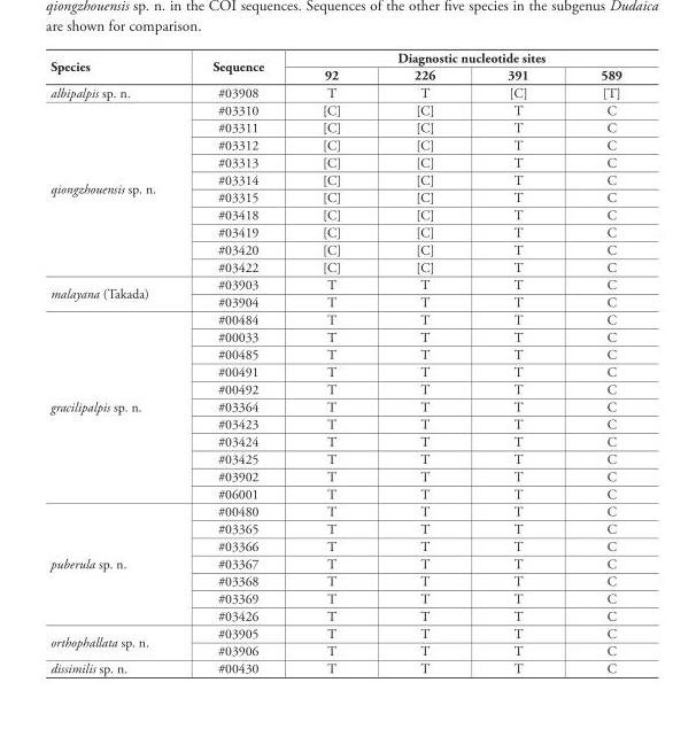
<table><thead><tr><td rowspan="2">Species</td><td rowspan="2">Sequence</td><td colspan="4">Diagnostic nucleotide sites</td></tr><tr><td>92</td><td>226</td><td>391</td><td>589</td></tr></thead><tbody><tr><td>albipalpis sp. n.</td><td>#03908</td><td>T</td><td>T</td><td>[C]</td><td>[T]</td></tr><tr><td rowspan="10">qiongzhouensis sp. n.</td><td>#03310</td><td>[C]</td><td>[C]</td><td>T</td><td>C</td></tr><tr><td>#03311</td><td>[C]</td><td>[C]</td><td>T</td><td>C</td></tr><tr><td>#03312</td><td>[C]</td><td>[C]</td><td>T</td><td>C</td></tr><tr><td>#03313</td><td>[C]</td><td>[C]</td><td>T</td><td>C</td></tr><tr><td>#03314</td><td>[C]</td><td>[C]</td><td>T</td><td>C</td></tr><tr><td>#03315</td><td>[C]</td><td>[C]</td><td>T</td><td>C</td></tr><tr><td>#03418</td><td>[C]</td><td>[C]</td><td>T</td><td>C</td></tr><tr><td>#03419</td><td>[C]</td><td>[C]</td><td>T</td><td>C</td></tr><tr><td>#03420</td><td>[C]</td><td>[C]</td><td>T</td><td>C</td></tr><tr><td>#03422</td><td>[C]</td><td>[C]</td><td>T</td><td>C</td></tr><tr><td rowspan="2">malayana (Takada)</td><td>#03903</td><td>T</td><td>T</td><td>T</td><td>C</td></tr><tr><td>#03904</td><td>T</td><td>T</td><td>T</td><td>C</td></tr><tr><td rowspan="11">gracilipalpis sp. n.</td><td>#00484</td><td>T</td><td>T</td><td>T</td><td>C</td></tr><tr><td>#00033</td><td>T</td><td>T</td><td>T</td><td>C</td></tr><tr><td>#00485</td><td>T</td><td>T</td><td>T</td><td>C</td></tr><tr><td>#00491</td><td>T</td><td>T</td><td>T</td><td>C</td></tr><tr><td>#00492</td><td>T</td><td>T</td><td>T</td><td>C</td></tr><tr><td>#03364</td><td>T</td><td>T</td><td>T</td><td>C</td></tr><tr><td>#03423</td><td>T</td><td>T</td><td>T</td><td>C</td></tr><tr><td>#03424</td><td>T</td><td>T</td><td>T</td><td>C</td></tr><tr><td>#03425</td><td>T</td><td>T</td><td>T</td><td>C</td></tr><tr><td>#03902</td><td>T</td><td>T</td><td>T</td><td>C</td></tr><tr><td>#06001</td><td>T</td><td>T</td><td>T</td><td>C</td></tr><tr><td rowspan="7">puberula sp. n.</td><td>#00480</td><td>T</td><td>T</td><td>T</td><td>C</td></tr><tr><td>#03365</td><td>T</td><td>T</td><td>T</td><td>C</td></tr><tr><td>#03366</td><td>T</td><td>T</td><td>T</td><td>C</td></tr><tr><td>#03367</td><td>T</td><td>T</td><td>T</td><td>C</td></tr><tr><td>#03368</td><td>T</td><td>T</td><td>T</td><td>C</td></tr><tr><td>#03369</td><td>T</td><td>T</td><td>T</td><td>C</td></tr><tr><td>#03426</td><td>T</td><td>T</td><td>T</td><td>C</td></tr><tr><td rowspan="2">orthophallata sp. n.</td><td>#03905</td><td>T</td><td>T</td><td>T</td><td>C</td></tr><tr><td>#03906</td><td>T</td><td>T</td><td>T</td><td>C</td></tr><tr><td>dissimilis sp. n.</td><td>#00430</td><td>T</td><td>T</td><td>T</td><td>C</td></tr></tbody></table>